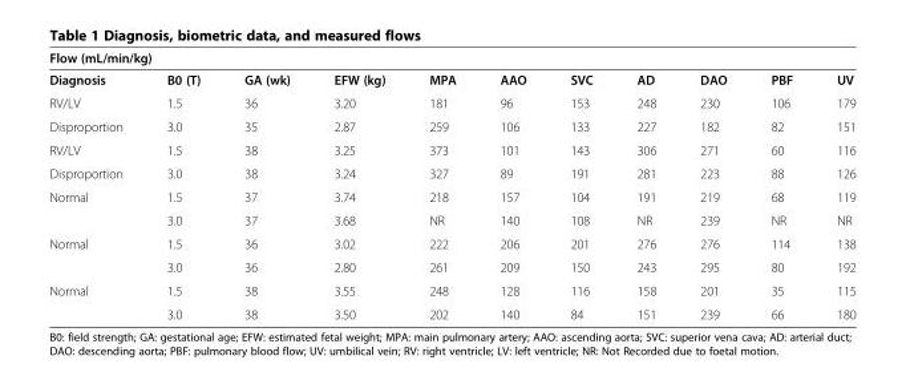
<table><thead><tr><td colspan="11">Flow (mL/min/kg)</td></tr><tr><td>Diagnosis</td><td>B0 (T)</td><td>GA (wk)</td><td>EFW (kg)</td><td>MPA</td><td>AAO</td><td>SVC</td><td>AD</td><td>DAO</td><td>PBF</td><td>UV</td></tr></thead><tbody><tr><td>RV/LV</td><td>1.5</td><td>36</td><td>3.20</td><td>181</td><td>96</td><td>153</td><td>248</td><td>230</td><td>106</td><td>179</td></tr><tr><td>Disproportion</td><td>3.0</td><td>35</td><td>2.87</td><td>259</td><td>106</td><td>133</td><td>227</td><td>182</td><td>82</td><td>151</td></tr><tr><td>RV/LV</td><td>1.5</td><td>38</td><td>3.25</td><td>373</td><td>101</td><td>143</td><td>306</td><td>271</td><td>60</td><td>116</td></tr><tr><td>Disproportion</td><td>3.0</td><td>38</td><td>3.24</td><td>327</td><td>89</td><td>191</td><td>281</td><td>223</td><td>88</td><td>126</td></tr><tr><td rowspan="2">Normal</td><td>1.5</td><td>37</td><td>3.74</td><td>218</td><td>157</td><td>104</td><td>191</td><td>219</td><td>68</td><td>119</td></tr><tr><td>3.0</td><td>37</td><td>3.68</td><td>NR</td><td>140</td><td>108</td><td>NR</td><td>239</td><td>NR</td><td>NR</td></tr><tr><td rowspan="2">Normal</td><td>1.5</td><td>36</td><td>3.02</td><td>222</td><td>206</td><td>201</td><td>276</td><td>276</td><td>114</td><td>138</td></tr><tr><td>3.0</td><td>36</td><td>2.80</td><td>261</td><td>209</td><td>150</td><td>243</td><td>295</td><td>80</td><td>192</td></tr><tr><td rowspan="2">Normal</td><td>1.5</td><td>38</td><td>3.55</td><td>248</td><td>128</td><td>116</td><td>158</td><td>201</td><td>35</td><td>115</td></tr><tr><td>3.0</td><td>38</td><td>3.50</td><td>202</td><td>140</td><td>84</td><td>151</td><td>239</td><td>66</td><td>180</td></tr></tbody></table>